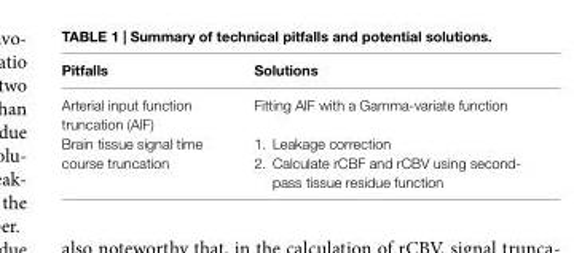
<table><thead><tr><td>Pitfalls</td><td>solutions</td></tr></thead><tbody><tr><td>Arterial input function truncation (AIF)</td><td>Fitting AIF with a Gamma-variate function</td></tr><tr><td rowspan="2">Brain tissue signal time course truncation</td><td>1. Leakage correction</td></tr><tr><td>2. Calculate rCBF and rCBV using second- pass tissue residue function</td></tr></tbody></table>